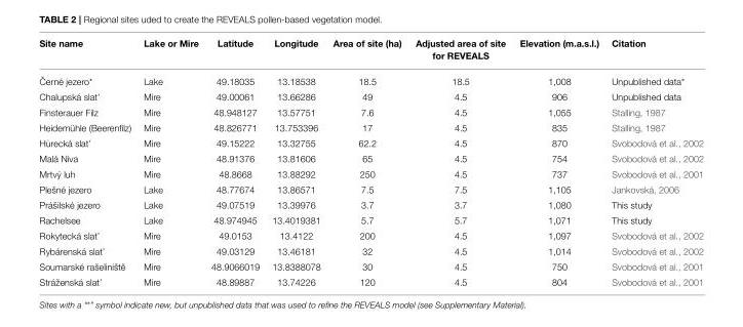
<table><thead><tr><td>Site name</td><td>Lake or Mire</td><td>Latitude</td><td>Longitude</td><td>Area of site (ha)</td><td>Adjusted area of site for REVEALS</td><td>Elevation (m.a.s.l.)</td><td>Citation</td></tr></thead><tbody><tr><td>ˇCerné jezero*</td><td>Lake</td><td>49.18035</td><td>13.18538</td><td>18.5</td><td>18.5</td><td>1,008</td><td>Unpublished data*</td></tr><tr><td>Chalupská slat’</td><td>Mire</td><td>49.00061</td><td>13.66286</td><td>49</td><td>4.5</td><td>906</td><td>Unpublished data</td></tr><tr><td>Finsterauer Filz</td><td>Mire</td><td>48.948127</td><td>13.57751</td><td>7.6</td><td>4.5</td><td>1,055</td><td>Stalling, 1987</td></tr><tr><td>Heidemühle (Beerenfilz)</td><td>Mire</td><td>48.826771</td><td>13.753396</td><td>17</td><td>4.5</td><td>835</td><td>Stalling, 1987</td></tr><tr><td>H ◦urecká slat’</td><td>Mire</td><td>49.15222</td><td>13.32755</td><td>62.2</td><td>4.5</td><td>870</td><td>Svobodová et al., 2002</td></tr><tr><td>Malá Niva</td><td>Mire</td><td>48.91376</td><td>13.81606</td><td>65</td><td>4.5</td><td>754</td><td>Svobodová et al., 2002</td></tr><tr><td>Mrtvý luh</td><td>Mire</td><td>48.8668</td><td>13.88292</td><td>250</td><td>4.5</td><td>737</td><td>Svobodová et al., 2001</td></tr><tr><td>Plešné jezero</td><td>Lake</td><td>48.77674</td><td>13.86571</td><td>7.5</td><td>7.5</td><td>1,105</td><td>Jankovská, 2006</td></tr><tr><td>Prášilské jezero</td><td>Lake</td><td>49.07519</td><td>13.39976</td><td>3.7</td><td>3.7</td><td>1,080</td><td>This study</td></tr><tr><td>Rachelsee</td><td>Lake</td><td>48.974945</td><td>13.4019381</td><td>5.7</td><td>5.7</td><td>1,071</td><td>This study</td></tr><tr><td>Rokytecká slat’</td><td>Mire</td><td>49.0153</td><td>13.4122</td><td>200</td><td>4.5</td><td>1,097</td><td>Svobodová et al., 2002</td></tr><tr><td>Rybárenská slat’</td><td>Mire</td><td>49.03129</td><td>13.46181</td><td>32</td><td>4.5</td><td>1,014</td><td>Svobodová et al., 2002</td></tr><tr><td>Soumarské rašeliništ ˇe</td><td>Mire</td><td>48.9066019</td><td>13.8388078</td><td>30</td><td>4.5</td><td>750</td><td>Svobodová et al., 2001</td></tr><tr><td>Stráženská slat’</td><td>Mire</td><td>48.89887</td><td>13.74226</td><td>120</td><td>4.5</td><td>804</td><td>Svobodová et al., 2001</td></tr></tbody></table>